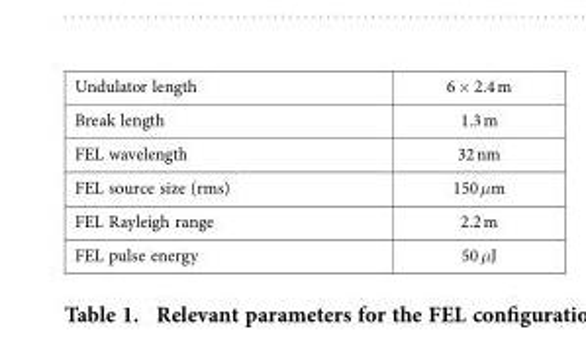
<table><tbody><tr><td>Undulator length</td><td>6 × 2.4 m</td></tr><tr><td>Break length</td><td>1.3 m</td></tr><tr><td>FEL wavelength</td><td>32 nm</td></tr><tr><td>FEL source size (rms)</td><td>150 μm</td></tr><tr><td>FEL Rayleigh range</td><td>2.2 m</td></tr><tr><td>FEL pulse energy</td><td>50 μJ</td></tr></tbody></table>